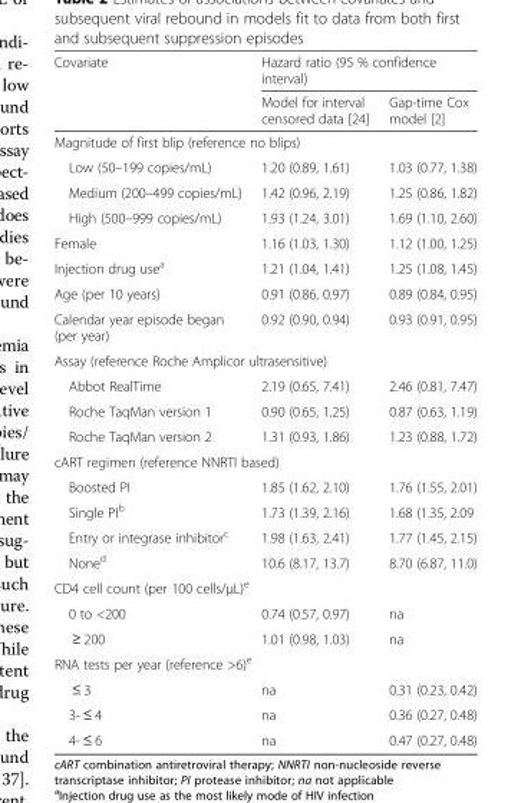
<table><thead><tr><td rowspan="2">Covariate</td><td colspan="2">Hazard ratio (95 % confidence interval)</td></tr><tr><td>Model for interval censored data [24]</td><td>Gap-time Cox model [2]</td></tr></thead><tbody><tr><td colspan="3">Magnitude of first blip (reference no blips)</td></tr><tr><td>Low (50–199 copies/mL)</td><td>1.20 (0.89, 1.61)</td><td>1.03 (0.77, 1.38)</td></tr><tr><td>Medium (200–499 copies/mL)</td><td>1.42 (0.96, 2.19)</td><td>1.25 (0.86, 1.82)</td></tr><tr><td>High (500–999 copies/mL)</td><td>1.93 (1.24, 3.01)</td><td>1.69 (1.10, 2.60)</td></tr><tr><td>Female</td><td>1.16 (1.03, 1.30)</td><td>1.12 (1.00, 1.25)</td></tr><tr><td>Injection drug use<sup>a</sup></td><td>1.21 (1.04, 1.41)</td><td>1.25 (1.08, 1.45)</td></tr><tr><td>Age (per 10 years)</td><td>0.91 (0.86, 0.97)</td><td>0.89 (0.84, 0.95)</td></tr><tr><td>Calendar year episode began (per year)</td><td>0.92 (0.90, 0.94)</td><td>0.93 (0.91, 0.95)</td></tr><tr><td colspan="3">Assay (reference Roche Amplicor ultrasensitive)</td></tr><tr><td>Abbot RealTime</td><td>2.19 (0.65, 7.41)</td><td>2.46 (0.81, 7.47)</td></tr><tr><td>Roche TaqMan version 1</td><td>0.90 (0.65, 1.25)</td><td>0.87 (0.63, 1.19)</td></tr><tr><td>Roche TaqMan version 2</td><td>1.31 (0.93, 1.86)</td><td>1.23 (0.88, 1.72)</td></tr><tr><td colspan="3">cART regimen (reference NNRTI based)</td></tr><tr><td>Boosted PI</td><td>1.85 (1.62, 2.10)</td><td>1.76 (1.55, 2.01)</td></tr><tr><td>Single PI<sup>b</sup></td><td>1.73 (1.39, 2.16)</td><td>1.68 (1.35, 2.09</td></tr><tr><td>Entry or integrase inhibitor<sup>c</sup></td><td>1.98 (1.63, 2.41)</td><td>1.77 (1.45, 2.15)</td></tr><tr><td>None<sup>d</sup></td><td>10.6 (8.17, 13.7)</td><td>8.70 (6.87, 11.0)</td></tr><tr><td colspan="3">CD4 cell count (per 100 cells/μL)<sup>e</sup></td></tr><tr><td>0 to &lt;200</td><td>0.74 (0.57, 0.97)</td><td>na</td></tr><tr><td>≥ 200</td><td>1.01 (0.98, 1.03)</td><td>na</td></tr><tr><td colspan="3">RNA tests per year (reference &gt;6)<sup>e</sup></td></tr><tr><td>≤ 3</td><td>na</td><td>0.31 (0.23, 0.42)</td></tr><tr><td>3- ≤ 4</td><td>na</td><td>0.36 (0.27, 0.48)</td></tr><tr><td>4- ≤ 6</td><td>na</td><td>0.47 (0.27, 0.48)</td></tr></tbody></table>